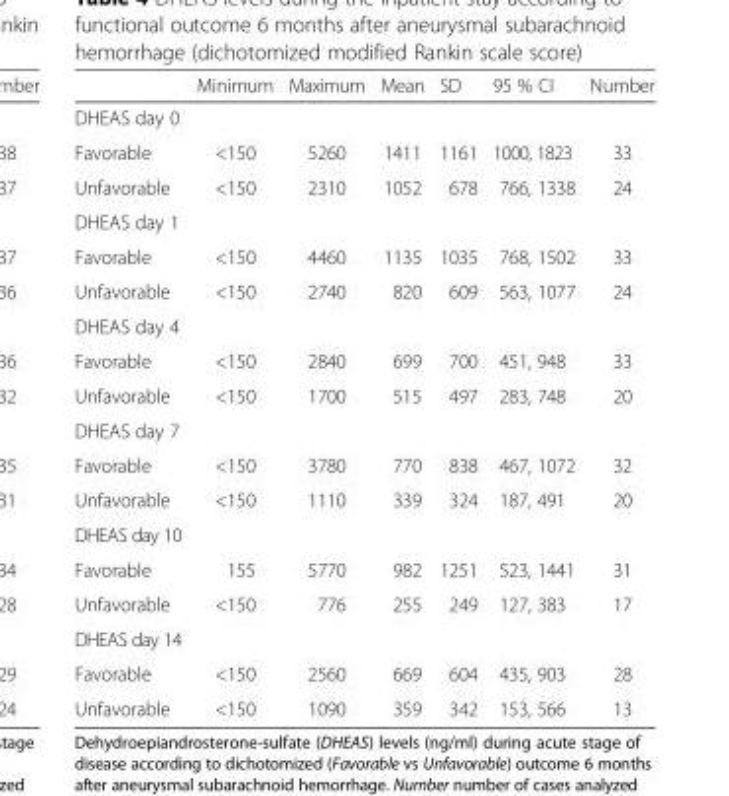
<table><thead><tr><td></td><td>Minimum</td><td>Maximum</td><td>Mean</td><td>SD</td><td>95 % CI</td><td>Number</td></tr></thead><tbody><tr><td colspan="7">DHEAS day 0</td></tr><tr><td>Favorable</td><td>&lt;150</td><td>5260</td><td>1411</td><td>1161</td><td>1000, 1823</td><td>33</td></tr><tr><td>Unfavorable</td><td>&lt;150</td><td>2310</td><td>1052</td><td>678</td><td>766, 1338</td><td>24</td></tr><tr><td colspan="7">DHEAS day 1</td></tr><tr><td>Favorable</td><td>&lt;150</td><td>4460</td><td>1135</td><td>1035</td><td>768, 1502</td><td>33</td></tr><tr><td>Unfavorable</td><td>&lt;150</td><td>2740</td><td>820</td><td>609</td><td>563, 1077</td><td>24</td></tr><tr><td colspan="7">DHEAS day 4</td></tr><tr><td>Favorable</td><td>&lt;150</td><td>2840</td><td>699</td><td>700</td><td>451, 948</td><td>33</td></tr><tr><td>Unfavorable</td><td>&lt;150</td><td>1700</td><td>515</td><td>497</td><td>283, 748</td><td>20</td></tr><tr><td colspan="7">DHEAS day 7</td></tr><tr><td>Favorable</td><td>&lt;150</td><td>3780</td><td>770</td><td>838</td><td>467, 1072</td><td>32</td></tr><tr><td>Unfavorable</td><td>&lt;150</td><td>1110</td><td>339</td><td>324</td><td>187, 491</td><td>20</td></tr><tr><td colspan="7">DHEAS day 10</td></tr><tr><td>Favorable</td><td>155</td><td>5770</td><td>982</td><td>1251</td><td>523, 1441</td><td>31</td></tr><tr><td>Unfavorable</td><td>&lt;150</td><td>776</td><td>255</td><td>249</td><td>127, 383</td><td>17</td></tr><tr><td colspan="7">DHEAS day 14</td></tr><tr><td>Favorable</td><td>&lt;150</td><td>2560</td><td>669</td><td>604</td><td>435, 903</td><td>28</td></tr><tr><td>Unfavorable</td><td>&lt;150</td><td>1090</td><td>359</td><td>342</td><td>153, 566</td><td>13</td></tr></tbody></table>